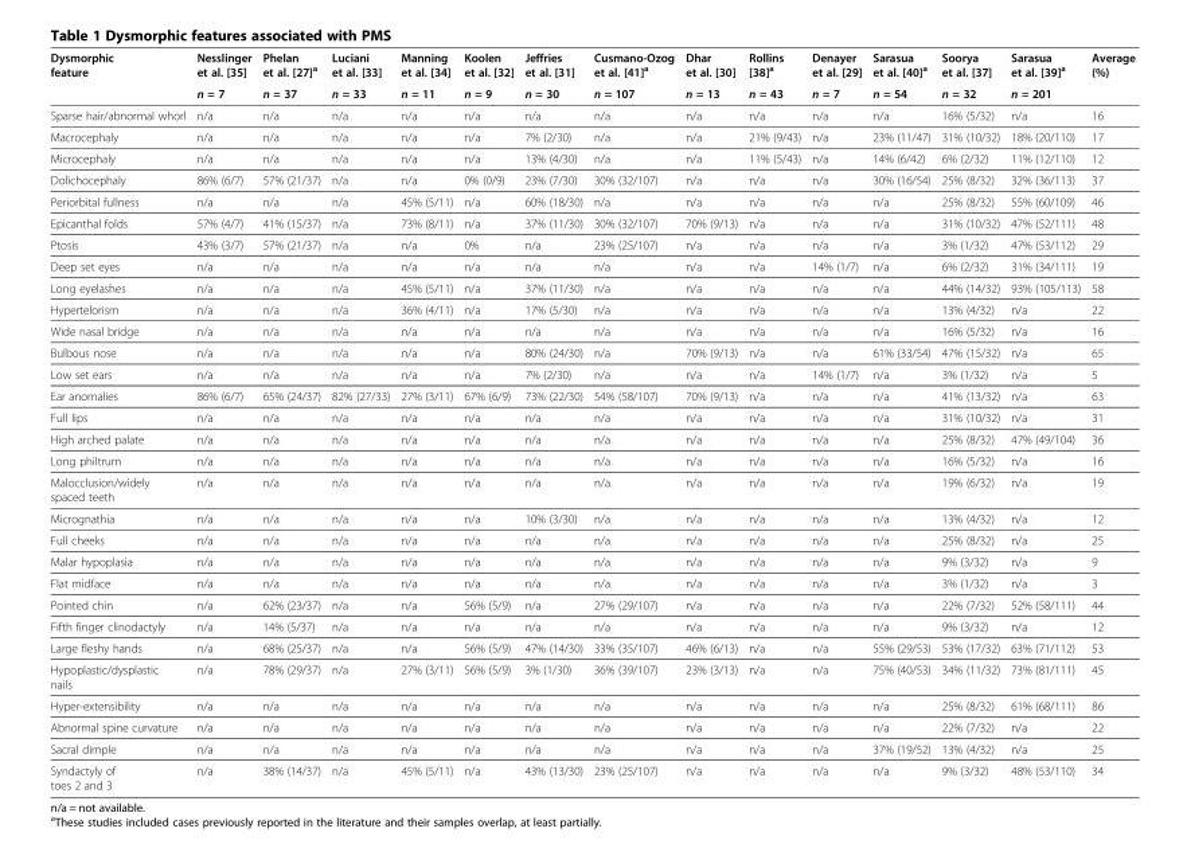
<table><thead><tr><td rowspan="2">Dysmorphic feature</td><td rowspan="2">Nesslinger et al. [35] n = 7</td><td rowspan="2">Phelan et al. [27]a n = 37</td><td rowspan="2">Luciani et al. [33] n = 33</td><td rowspan="2">Manning et al. [34] n = 11</td><td rowspan="2">Koolen et al. [32] n = 9</td><td rowspan="2">Jeffries et al. [31] n = 30</td><td rowspan="2">Cusmano-Ozog et al. [41]a n = 107</td><td rowspan="2">Dhar et al. [30] n = 13</td><td rowspan="2">Rollins [38]a n = 43</td><td rowspan="2">Denayer et al. [29] n = 7</td><td rowspan="2">Sarasua et al. [40]a n = 54</td><td rowspan="2">Soorya et al. [37] n = 32</td><td rowspan="2">Sarasua et al. [39]a n = 201</td><td rowspan="2">Average (%)</td></tr><tr></tr></thead><tbody><tr><td>Sparse hair/abnormal whorl</td><td>n/a</td><td>n/a</td><td>n/a</td><td>n/a</td><td>n/a</td><td>n/a</td><td>n/a</td><td>n/a</td><td>n/a</td><td>n/a</td><td>n/a</td><td>16% (5/32)</td><td>n/a</td><td>16</td></tr><tr><td>Macrocephaly</td><td>n/a</td><td>n/a</td><td>n/a</td><td>n/a</td><td>n/a</td><td>7% (2/30)</td><td>n/a</td><td>n/a</td><td>21% (9/43)</td><td>n/a</td><td>23% (11/47)</td><td>31% (10/32)</td><td>18% (20/110)</td><td>17</td></tr><tr><td>Microcephaly</td><td>n/a</td><td>n/a</td><td>n/a</td><td>n/a</td><td>n/a</td><td>13% (4/30)</td><td>n/a</td><td>n/a</td><td>11% (5/43)</td><td>n/a</td><td>14% (6/42)</td><td>6% (2/32)</td><td>11% (12/110)</td><td>12</td></tr><tr><td>Dolichocephaly</td><td>86% (6/7)</td><td>57% (21/37)</td><td>n/a</td><td>n/a</td><td>0% (0/9)</td><td>23% (7/30)</td><td>30% (32/107)</td><td>n/a</td><td>n/a</td><td>n/a</td><td>30% (16/54)</td><td>25% (8/32)</td><td>32% (36/113)</td><td>37</td></tr><tr><td>Periorbital fullness</td><td>n/a</td><td>n/a</td><td>n/a</td><td>45% (5/11)</td><td>n/a</td><td>60% (18/30)</td><td>n/a</td><td>n/a</td><td>n/a</td><td>n/a</td><td>n/a</td><td>25% (8/32)</td><td>55% (60/109)</td><td>46</td></tr><tr><td>Epicanthal folds</td><td>57% (4/7)</td><td>41% (15/37)</td><td>n/a</td><td>73% (8/11)</td><td>n/a</td><td>37% (11/30)</td><td>30% (32/107)</td><td>70% (9/13)</td><td>n/a</td><td>n/a</td><td>n/a</td><td>31% (10/32)</td><td>47% (52/111)</td><td>48</td></tr><tr><td>Ptosis</td><td>43% (3/7)</td><td>57% (21/37)</td><td>n/a</td><td>n/a</td><td>0%</td><td>n/a</td><td>23% (25/107)</td><td>n/a</td><td>n/a</td><td>n/a</td><td>n/a</td><td>3% (1/32)</td><td>47% (53/112)</td><td>29</td></tr><tr><td>Deep set eyes</td><td>n/a</td><td>n/a</td><td>n/a</td><td>n/a</td><td>n/a</td><td>n/a</td><td>n/a</td><td>n/a</td><td>n/a</td><td>14% (1/7)</td><td>n/a</td><td>6% (2/32)</td><td>31% (34/111)</td><td>19</td></tr><tr><td>Long eyelashes</td><td>n/a</td><td>n/a</td><td>n/a</td><td>45% (5/11)</td><td>n/a</td><td>37% (11/30)</td><td>n/a</td><td>n/a</td><td>n/a</td><td>n/a</td><td>n/a</td><td>44% (14/32)</td><td>93% (105/113)</td><td>58</td></tr><tr><td>Hypertelorism</td><td>n/a</td><td>n/a</td><td>n/a</td><td>36% (4/11)</td><td>n/a</td><td>17% (5/30)</td><td>n/a</td><td>n/a</td><td>n/a</td><td>n/a</td><td>n/a</td><td>13% (4/32)</td><td>n/a</td><td>22</td></tr><tr><td>Wide nasal bridge</td><td>n/a</td><td>n/a</td><td>n/a</td><td>n/a</td><td>n/a</td><td>n/a</td><td>n/a</td><td>n/a</td><td>n/a</td><td>n/a</td><td>n/a</td><td>16% (5/32)</td><td>n/a</td><td>16</td></tr><tr><td>Bulbous nose</td><td>n/a</td><td>n/a</td><td>n/a</td><td>n/a</td><td>n/a</td><td>80% (24/30)</td><td>n/a</td><td>70% (9/13)</td><td>n/a</td><td>n/a</td><td>61% (33/54)</td><td>47% (15/32)</td><td>n/a</td><td>65</td></tr><tr><td>Low set ears</td><td>n/a</td><td>n/a</td><td>n/a</td><td>n/a</td><td>n/a</td><td>7% (2/30)</td><td>n/a</td><td>n/a</td><td>n/a</td><td>14% (1/7)</td><td>n/a</td><td>3% (1/32)</td><td>n/a</td><td>5</td></tr><tr><td>Ear anomalies</td><td>86% (6/7)</td><td>65% (24/37)</td><td>82% (27/33)</td><td>27% (3/11)</td><td>67% (6/9)</td><td>73% (22/30)</td><td>54% (58/107)</td><td>70% (9/13)</td><td>n/a</td><td>n/a</td><td>n/a</td><td>41% (13/32)</td><td>n/a</td><td>63</td></tr><tr><td>Full lips</td><td>n/a</td><td>n/a</td><td>n/a</td><td>n/a</td><td>n/a</td><td>n/a</td><td>n/a</td><td>n/a</td><td>n/a</td><td>n/a</td><td>n/a</td><td>31% (10/32)</td><td>n/a</td><td>31</td></tr><tr><td>High arched palate</td><td>n/a</td><td>n/a</td><td>n/a</td><td>n/a</td><td>n/a</td><td>n/a</td><td>n/a</td><td>n/a</td><td>n/a</td><td>n/a</td><td>n/a</td><td>25% (8/32)</td><td>47% (49/104)</td><td>36</td></tr><tr><td>Long philtrum</td><td>n/a</td><td>n/a</td><td>n/a</td><td>n/a</td><td>n/a</td><td>n/a</td><td>n/a</td><td>n/a</td><td>n/a</td><td>n/a</td><td>n/a</td><td>16% (5/32)</td><td>n/a</td><td>16</td></tr><tr><td>Malocclusion/widely spaced teeth</td><td>n/a</td><td>n/a</td><td>n/a</td><td>n/a</td><td>n/a</td><td>n/a</td><td>n/a</td><td>n/a</td><td>n/a</td><td>n/a</td><td>n/a</td><td>19% (6/32)</td><td>n/a</td><td>19</td></tr><tr><td>Micrognathia</td><td>n/a</td><td>n/a</td><td>n/a</td><td>n/a</td><td>n/a</td><td>10% (3/30)</td><td>n/a</td><td>n/a</td><td>n/a</td><td>n/a</td><td>n/a</td><td>13% (4/32)</td><td>n/a</td><td>12</td></tr><tr><td>Full cheeks</td><td>n/a</td><td>n/a</td><td>n/a</td><td>n/a</td><td>n/a</td><td>n/a</td><td>n/a</td><td>n/a</td><td>n/a</td><td>n/a</td><td>n/a</td><td>25% (8/32)</td><td>n/a</td><td>25</td></tr><tr><td>Malar hypoplasia</td><td>n/a</td><td>n/a</td><td>n/a</td><td>n/a</td><td>n/a</td><td>n/a</td><td>n/a</td><td>n/a</td><td>n/a</td><td>n/a</td><td>n/a</td><td>9% (3/32)</td><td>n/a</td><td>9</td></tr><tr><td>Flat midface</td><td>n/a</td><td>n/a</td><td>n/a</td><td>n/a</td><td>n/a</td><td>n/a</td><td>n/a</td><td>n/a</td><td>n/a</td><td>n/a</td><td>n/a</td><td>3% (1/32)</td><td>n/a</td><td>3</td></tr><tr><td>Pointed chin</td><td>n/a</td><td>62% (23/37)</td><td>n/a</td><td>n/a</td><td>56% (5/9)</td><td>n/a</td><td>27% (29/107)</td><td>n/a</td><td>n/a</td><td>n/a</td><td>n/a</td><td>22% (7/32)</td><td>52% (58/111)</td><td>44</td></tr><tr><td>Fifth finger clinodactyly</td><td>n/a</td><td>14% (5/37)</td><td>n/a</td><td>n/a</td><td>n/a</td><td>n/a</td><td>n/a</td><td>n/a</td><td>n/a</td><td>n/a</td><td>n/a</td><td>9% (3/32)</td><td>n/a</td><td>12</td></tr><tr><td>Large fleshy hands</td><td>n/a</td><td>68% (25/37)</td><td>n/a</td><td>n/a</td><td>56% (5/9)</td><td>47% (14/30)</td><td>33% (35/107)</td><td>46% (6/13)</td><td>n/a</td><td>n/a</td><td>55% (29/53)</td><td>53% (17/32)</td><td>63% (71/112)</td><td>53</td></tr><tr><td>Hypoplastic/dysplastic nails</td><td>n/a</td><td>78% (29/37)</td><td>n/a</td><td>27% (3/11)</td><td>56% (5/9)</td><td>3% (1/30)</td><td>36% (39/107)</td><td>23% (3/13)</td><td>n/a</td><td>n/a</td><td>75% (40/53)</td><td>34% (11/32)</td><td>73% (81/111)</td><td>45</td></tr><tr><td>Hyper-extensibility</td><td>n/a</td><td>n/a</td><td>n/a</td><td>n/a</td><td>n/a</td><td>n/a</td><td>n/a</td><td>n/a</td><td>n/a</td><td>n/a</td><td>n/a</td><td>25% (8/32)</td><td>61% (68/111)</td><td>86</td></tr><tr><td>Abnormal spine curvature</td><td>n/a</td><td>n/a</td><td>n/a</td><td>n/a</td><td>n/a</td><td>n/a</td><td>n/a</td><td>n/a</td><td>n/a</td><td>n/a</td><td>n/a</td><td>22% (7/32)</td><td>n/a</td><td>22</td></tr><tr><td>Sacral dimple</td><td>n/a</td><td>n/a</td><td>n/a</td><td>n/a</td><td>n/a</td><td>n/a</td><td>n/a</td><td>n/a</td><td>n/a</td><td>n/a</td><td>37% (19/52)</td><td>13% (4/32)</td><td>n/a</td><td>25</td></tr><tr><td>Syndactyly of toes 2 and 3</td><td>n/a</td><td>38% (14/37)</td><td>n/a</td><td>45% (5/11)</td><td>n/a</td><td>43% (13/30)</td><td>23% (25/107)</td><td>n/a</td><td>n/a</td><td>n/a</td><td>n/a</td><td>9% (3/32)</td><td>48% (53/110)</td><td>34</td></tr></tbody></table>